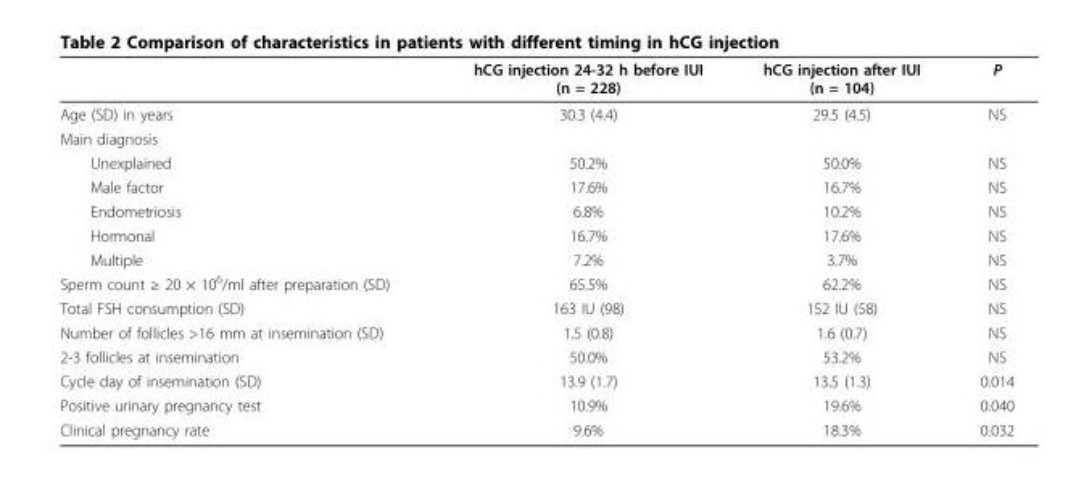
<table><thead><tr><td></td><td>hCG injection 24-32 h before IUI (n = 228)</td><td>hCG injection after IUI (n = 104)</td><td>P</td></tr></thead><tbody><tr><td>Age (SD) in years</td><td>30.3 (4.4)</td><td>29.5 (4.5)</td><td>NS</td></tr><tr><td colspan="4">Main diagnosis</td></tr><tr><td>Unexplained</td><td>50.2%</td><td>50.0%</td><td>NS</td></tr><tr><td>Male factor</td><td>17.6%</td><td>16.7%</td><td>NS</td></tr><tr><td>Endometriosis</td><td>6.8%</td><td>10.2%</td><td>NS</td></tr><tr><td>Hormonal</td><td>16.7%</td><td>17.6%</td><td>NS</td></tr><tr><td>Multiple</td><td>7.2%</td><td>3.7%</td><td>NS</td></tr><tr><td>Sperm count ≥ 20 × 10<sup>6</sup>/ml after preparation (SD)</td><td>65.5%</td><td>62.2%</td><td>NS</td></tr><tr><td>Total FSH consumption (SD)</td><td>163 IU (98)</td><td>152 IU (58)</td><td>NS</td></tr><tr><td>Number of follicles &gt;16 mm at insemination (SD)</td><td>1.5 (0.8)</td><td>1.6 (0.7)</td><td>NS</td></tr><tr><td>2-3 follicles at insemination</td><td>50.0%</td><td>53.2%</td><td>NS</td></tr><tr><td>Cycle day of insemination (SD)</td><td>13.9 (1.7)</td><td>13.5 (1.3)</td><td>0.014</td></tr><tr><td>Positive urinary pregnancy test</td><td>10.9%</td><td>19.6%</td><td>0.040</td></tr><tr><td>Clinical pregnancy rate</td><td>9.6%</td><td>18.3%</td><td>0.032</td></tr></tbody></table>